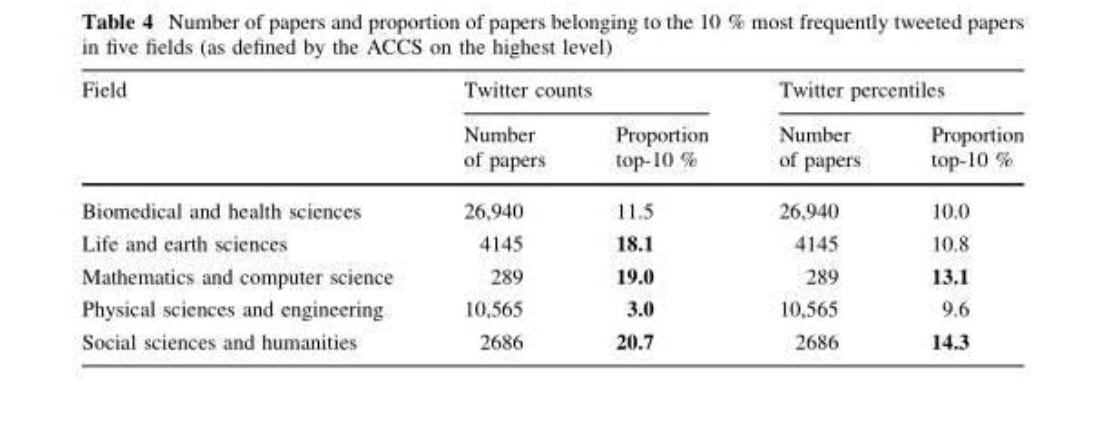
<table><thead><tr><td rowspan="2">Field</td><td colspan="2">Twitter counts</td><td colspan="2">Twitter percentiles</td></tr><tr><td>Number of papers</td><td>Proportion top-10 %</td><td>Number of papers</td><td>Proportion top-10 %</td></tr></thead><tbody><tr><td>Biomedical and health sciences</td><td>26,940</td><td>11.5</td><td>26,940</td><td>10.0</td></tr><tr><td>Life and earth sciences</td><td>4145</td><td>18.1</td><td>4145</td><td>10.8</td></tr><tr><td>Mathematics and computer science</td><td>289</td><td>19.0</td><td>289</td><td>13.1</td></tr><tr><td>Physical sciences and engineering</td><td>10,565</td><td>3.0</td><td>10,565</td><td>9.6</td></tr><tr><td>Social sciences and humanities</td><td>2686</td><td>20.7</td><td>2686</td><td>14.3</td></tr></tbody></table>